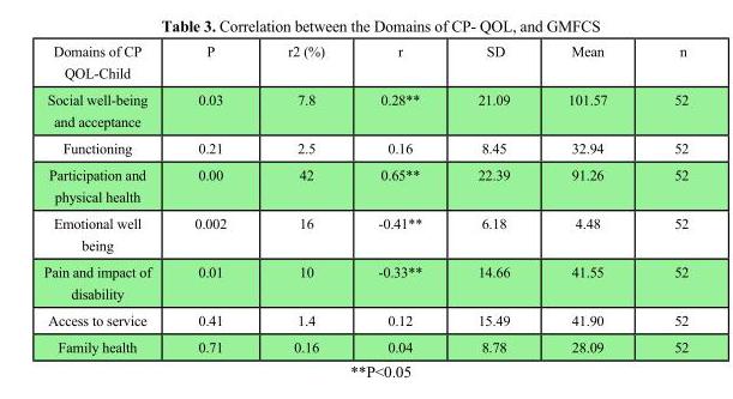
<table><thead><tr><td>Domains of CP QOL-Child</td><td>P</td><td>r<sup>2</sup> (%)</td><td>r</td><td>SD</td><td>Mean</td><td>n</td></tr></thead><tbody><tr><td>Social well-being and acceptance</td><td>0.03</td><td>7.8</td><td>0.28**</td><td>21.09</td><td>101.57</td><td>52</td></tr><tr><td>Functioning</td><td>0.21</td><td>2.5</td><td>0.16</td><td>8.45</td><td>32.94</td><td>52</td></tr><tr><td>Participation and physical health</td><td>0.00</td><td>42</td><td>0.65**</td><td>22.39</td><td>91.26</td><td>52</td></tr><tr><td>Emotional well being</td><td>0.002</td><td>16</td><td>-0.41**</td><td>6.18</td><td>4.48</td><td>52</td></tr><tr><td>Pain and impact of disability</td><td>0.01</td><td>10</td><td>-0.33**</td><td>14.66</td><td>41.55</td><td>52</td></tr><tr><td>Access to service</td><td>0.41</td><td>1.4</td><td>0.12</td><td>15.49</td><td>41.90</td><td>52</td></tr><tr><td>Family health</td><td>0.71</td><td>0.16</td><td>0.04</td><td>8.78</td><td>28.09</td><td>52</td></tr></tbody></table>